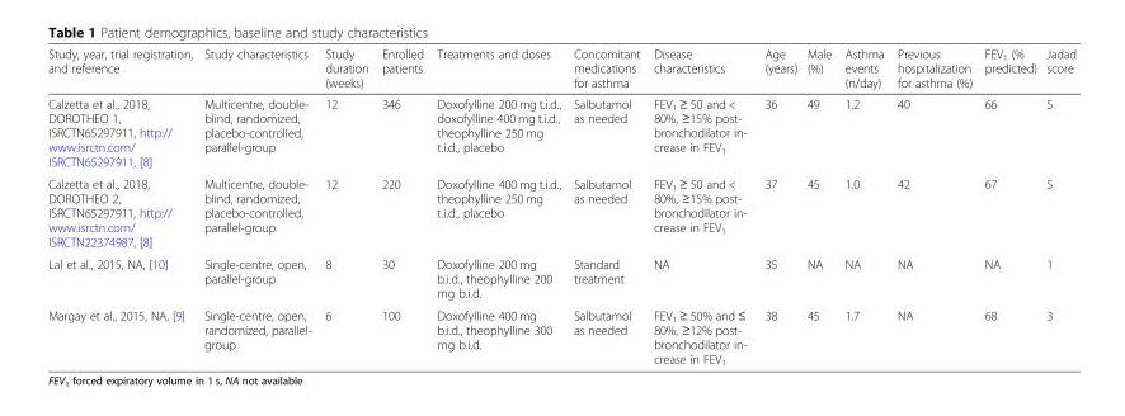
<table><thead><tr><td>Study, year, trial registration, and reference</td><td>Study characteristics</td><td>Study duration (weeks)</td><td>Enrolled patients</td><td>Treatments and doses</td><td>Concomitant medications for asthma</td><td>Disease characteristics</td><td>Age (years)</td><td>Male (%)</td><td>Asthma events (n/day)</td><td>Previous hospitalization for asthma (%)</td><td>FEV<sub>1</sub> (% predicted)</td><td>Jadad score</td></tr></thead><tbody><tr><td>Calzetta et al., 2018, DOROTHEO 1, ISRCTN65297911, http:// www.isrctn.com/ ISRCTN65297911, [8]</td><td>Multicentre, double- blind, randomized, placebo-controlled, parallel-group</td><td>12</td><td>346</td><td>Doxofylline 200 mg t.i.d., doxofylline 400 mg t.i.d., theophylline 250 mg t.i.d., placebo</td><td>Salbutamol as needed</td><td>FEV1 ≥ 50 and &lt; 80%, ≥15% post- bronchodilator in- crease in FEV1</td><td>36</td><td>49</td><td>1.2</td><td>40</td><td>66</td><td>5</td></tr><tr><td>Calzetta et al., 2018, DOROTHEO 2, ISRCTN65297911, http:// www.isrctn.com/ ISRCTN22374987, [8]</td><td>Multicentre, double- blind, randomized, placebo-controlled, parallel-group</td><td>12</td><td>220</td><td>Doxofylline 400 mg t.i.d., theophylline 250 mg t.i.d., placebo</td><td>Salbutamol as needed</td><td>FEV1 ≥ 50 and &lt; 80%, ≥15% post- bronchodilator in- crease in FEV1</td><td>37</td><td>45</td><td>1.0</td><td>42</td><td>67</td><td>5</td></tr><tr><td>Lal et al., 2015, NA, [10]</td><td>Single-centre, open, parallel-group</td><td>8</td><td>30</td><td>Doxofylline 200 mg b.i.d., theophylline 200 mg b.i.d.</td><td>Standard treatment</td><td>NA</td><td>35</td><td>NA</td><td>NA</td><td>NA</td><td>NA</td><td>1</td></tr><tr><td>Margay et al., 2015, NA, [9]</td><td>Single-centre, open, randomized, parallel- group</td><td>6</td><td>100</td><td>Doxofylline 400 mg b.i.d., theophylline 300 mg b.i.d.</td><td>Salbutamol as needed</td><td>FEV1 ≥ 50% and ≤ 80%, ≥12% post- bronchodilator in- crease in FEV1</td><td>38</td><td>45</td><td>1.7</td><td>NA</td><td>68</td><td>3</td></tr></tbody></table>